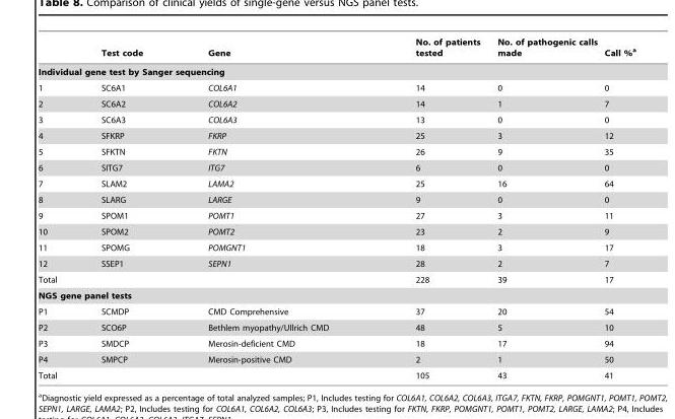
<table><thead><tr><td></td><td>Test code</td><td>Gene</td><td>No. of patients tested</td><td>No. of pathogenic calls made</td><td>Call %<sup>a</sup></td></tr></thead><tbody><tr><td colspan="6">Individual gene test by Sanger sequencing</td></tr><tr><td>1</td><td>SC6A1</td><td>COL6A1</td><td>14</td><td>0</td><td>0</td></tr><tr><td>2</td><td>SC6A2</td><td>COL6A2</td><td>14</td><td>1</td><td>7</td></tr><tr><td>3</td><td>SC6A3</td><td>COL6A3</td><td>13</td><td>0</td><td>0</td></tr><tr><td>4</td><td>SFKRP</td><td>FKRP</td><td>25</td><td>3</td><td>12</td></tr><tr><td>5</td><td>SFKTN</td><td>FKTN</td><td>26</td><td>9</td><td>35</td></tr><tr><td>6</td><td>SITG7</td><td>ITG7</td><td>6</td><td>0</td><td>0</td></tr><tr><td>7</td><td>SLAM2</td><td>LAMA2</td><td>25</td><td>16</td><td>64</td></tr><tr><td>8</td><td>SLARG</td><td>LARGE</td><td>9</td><td>0</td><td>0</td></tr><tr><td>9</td><td>SPOM1</td><td>POMT1</td><td>27</td><td>3</td><td>11</td></tr><tr><td>10</td><td>SPOM2</td><td>POMT2</td><td>23</td><td>2</td><td>9</td></tr><tr><td>11</td><td>SPOMG</td><td>POMGNT1</td><td>18</td><td>3</td><td>17</td></tr><tr><td>12</td><td>SSEP1</td><td>SEPN1</td><td>28</td><td>2</td><td>7</td></tr><tr><td>Total</td><td></td><td></td><td>228</td><td>39</td><td>17</td></tr><tr><td colspan="6">NGS gene panel tests</td></tr><tr><td>P1</td><td>SCMDP</td><td>CMD Comprehensive</td><td>37</td><td>20</td><td>54</td></tr><tr><td>P2</td><td>SCO6P</td><td>Bethlem myopathy/Ullrich CMD</td><td>48</td><td>5</td><td>10</td></tr><tr><td>P3</td><td>SMDCP</td><td>Merosin-deficient CMD</td><td>18</td><td>17</td><td>94</td></tr><tr><td>P4</td><td>SMPCP</td><td>Merosin-positive CMD</td><td>2</td><td>1</td><td>50</td></tr><tr><td>Total</td><td></td><td></td><td>105</td><td>43</td><td>41</td></tr></tbody></table>